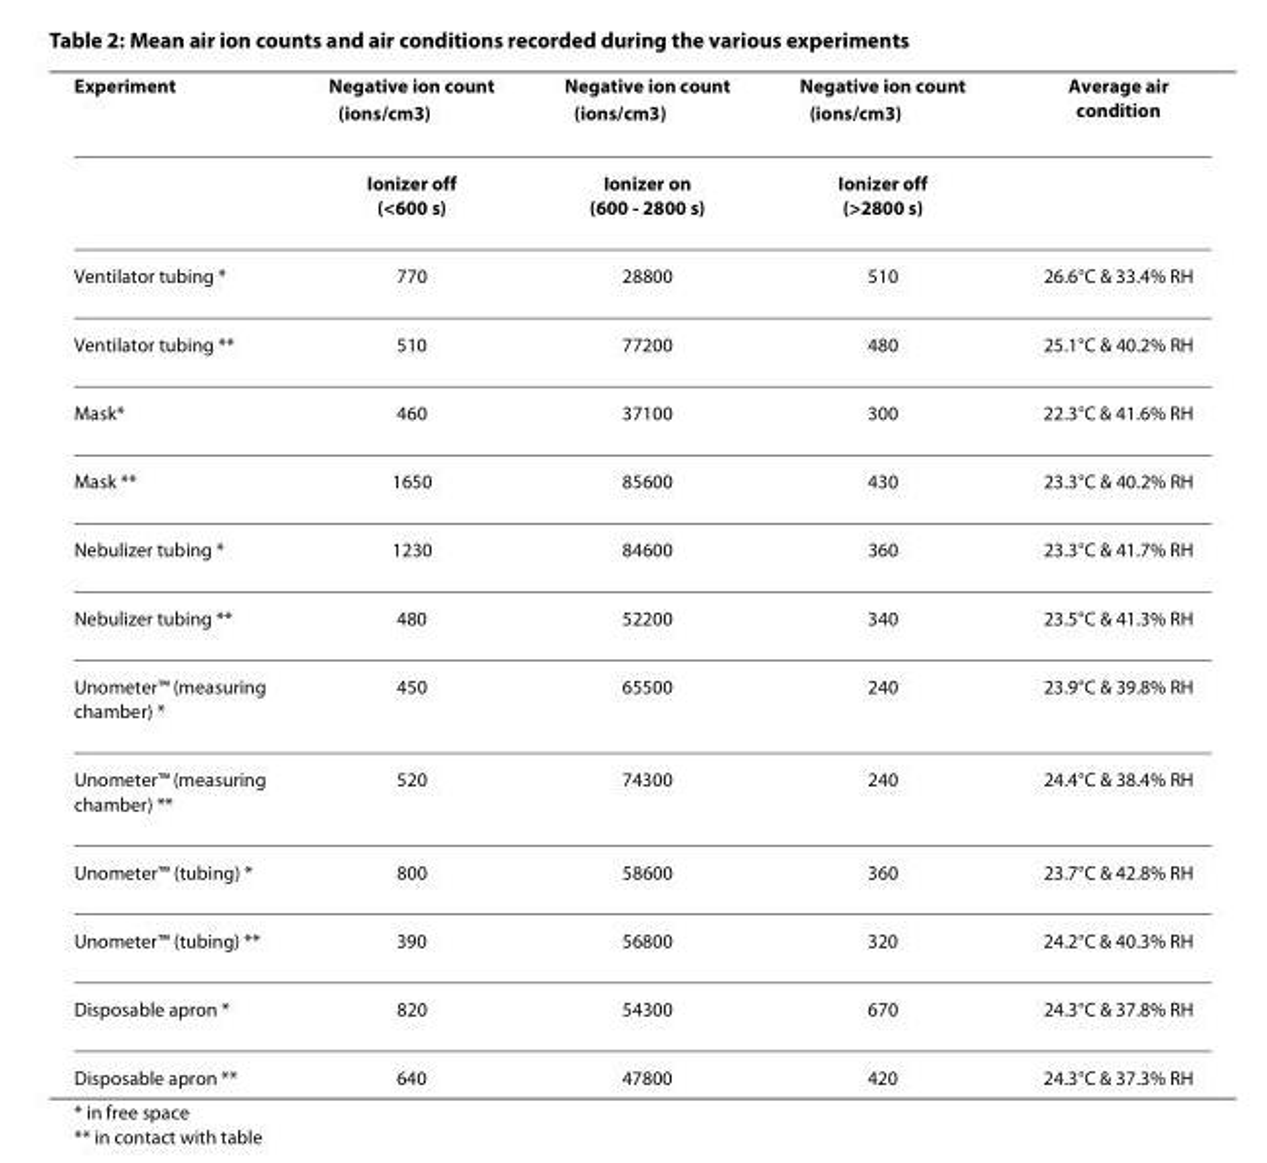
<table><thead><tr><td>Experiment</td><td>Negative ion count (ions/cm<sup>3</sup>)</td><td>Negative ion count (ions/cm<sup>3</sup>)</td><td>Negative ion count (ions/cm<sup>3</sup>)</td><td>Average air condition</td></tr></thead><tbody><tr><td></td><td>Ionizer off (&lt;600 s)</td><td>Ionizer on (600 - 2800 s)</td><td>Ionizer off (&gt;2800 s)</td><td></td></tr><tr><td>Ventilator tubing *</td><td>770</td><td>28800</td><td>510</td><td>26.6°C &amp; 33.4% RH</td></tr><tr><td>Ventilator tubing **</td><td>510</td><td>77200</td><td>480</td><td>25.1°C &amp; 40.2% RH</td></tr><tr><td>Mask*</td><td>460</td><td>37100</td><td>300</td><td>22.3°C &amp; 41.6% RH</td></tr><tr><td>Mask **</td><td>1650</td><td>85600</td><td>430</td><td>23.3°C &amp; 40.2% RH</td></tr><tr><td>Nebulizer tubing *</td><td>1230</td><td>84600</td><td>360</td><td>23.3°C &amp; 41.7% RH</td></tr><tr><td>Nebulizer tubing **</td><td>480</td><td>52200</td><td>340</td><td>23.5°C &amp; 41.3% RH</td></tr><tr><td>Unometer™ (measuring chamber) *</td><td>450</td><td>65500</td><td>240</td><td>23.9°C &amp; 39.8% RH</td></tr><tr><td>Unometer™ (measuring chamber) **</td><td>520</td><td>74300</td><td>240</td><td>24.4°C &amp; 38.4% RH</td></tr><tr><td>Unometer™ (tubing) *</td><td>800</td><td>58600</td><td>360</td><td>23.7°C &amp; 42.8% RH</td></tr><tr><td>Unometer™ (tubing) **</td><td>390</td><td>56800</td><td>320</td><td>24.2°C &amp; 40.3% RH</td></tr><tr><td>Disposable apron *</td><td>820</td><td>54300</td><td>670</td><td>24.3°C &amp; 37.8% RH</td></tr><tr><td>Disposable apron **</td><td>640</td><td>47800</td><td>420</td><td>24.3°C &amp; 37.3% RH</td></tr></tbody></table>